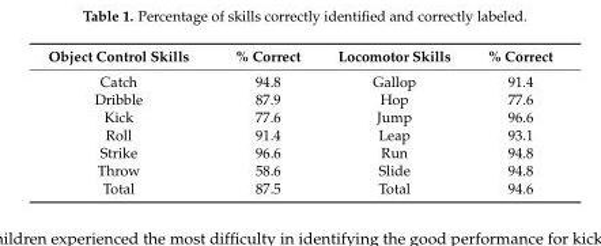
<table><thead><tr><td>Object Control Skills</td><td>% Correct</td><td>Locomotor Skills</td><td>% Correct</td></tr></thead><tbody><tr><td>Catch</td><td>94.8</td><td>Gallop</td><td>91.4</td></tr><tr><td>Dribble</td><td>87.9</td><td>Hop</td><td>77.6</td></tr><tr><td>Kick</td><td>77.6</td><td>Jump</td><td>96.6</td></tr><tr><td>Roll</td><td>91.4</td><td>Leap</td><td>93.1</td></tr><tr><td>Strike</td><td>96.6</td><td>Run</td><td>94.8</td></tr><tr><td>Throw</td><td>58.6</td><td>Slide</td><td>94.8</td></tr><tr><td>Total</td><td>87.5</td><td>Total</td><td>94.6</td></tr></tbody></table>